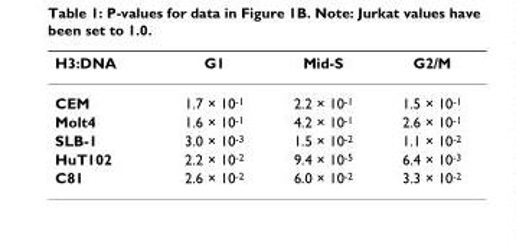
<table><thead><tr><td>H3:DNA</td><td>G1</td><td>Mid-S</td><td>G2/M</td></tr></thead><tbody><tr><td>CEM</td><td>1.7 × 10<sup>-1</sup></td><td>2.2 × 10<sup>-1</sup></td><td>1.5 × 10<sup>-1</sup></td></tr><tr><td>Molt4</td><td>1.6 × 10<sup>-1</sup></td><td>4.2 × 10<sup>-1</sup></td><td>2.6 × 10<sup>-1</sup></td></tr><tr><td>SLB-1</td><td>3.0 × 10<sup>-3</sup></td><td>1.5 × 10<sup>-2</sup></td><td>1.1 × 10<sup>-2</sup></td></tr><tr><td>HuT102</td><td>2.2 × 10<sup>-2</sup></td><td>9.4 × 10<sup>-5</sup></td><td>6.4 × 10<sup>-3</sup></td></tr><tr><td>C81</td><td>2.6 × 10<sup>-2</sup></td><td>6.0 × 10<sup>-2</sup></td><td>3.3 × 10<sup>-2</sup></td></tr></tbody></table>